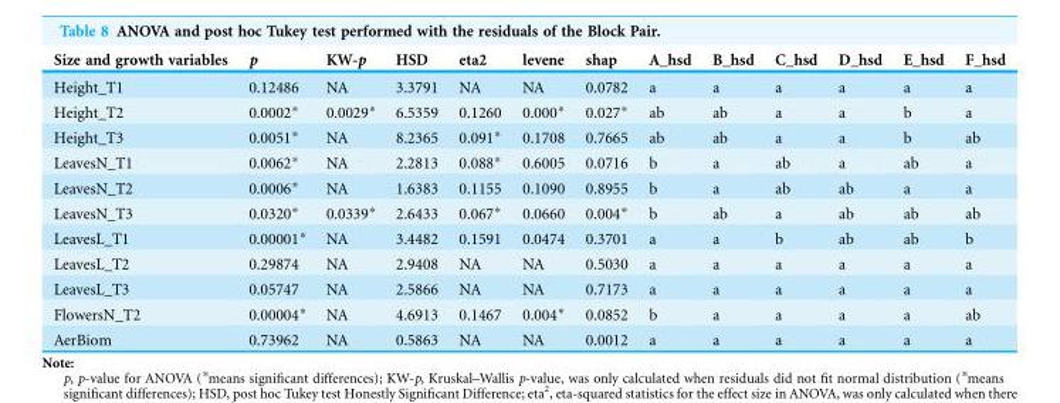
<table><thead><tr><td>Size and growth variables</td><td>p</td><td>KW-p</td><td>HSD</td><td>eta2</td><td>levene</td><td>shap</td><td>A_hsd</td><td>B_hsd</td><td>C_hsd</td><td>D_hsd</td><td>E_hsd</td><td>F_hsd</td></tr></thead><tbody><tr><td>Height_T1</td><td>0.12486</td><td>NA</td><td>3.3791</td><td>NA</td><td>NA</td><td>0.0782</td><td>a</td><td>a</td><td>a</td><td>a</td><td>a</td><td>a</td></tr><tr><td>Height_T2</td><td>0.0002*</td><td>0.0029*</td><td>6.5359</td><td>0.1260</td><td>0.000*</td><td>0.027*</td><td>ab</td><td>ab</td><td>a</td><td>a</td><td>b</td><td>a</td></tr><tr><td>Height_T3</td><td>0.0051*</td><td>NA</td><td>8.2365</td><td>0.091*</td><td>0.1708</td><td>0.7665</td><td>ab</td><td>ab</td><td>a</td><td>a</td><td>b</td><td>ab</td></tr><tr><td>LeavesN_T1</td><td>0.0062*</td><td>NA</td><td>2.2813</td><td>0.088*</td><td>0.6005</td><td>0.0716</td><td>b</td><td>a</td><td>ab</td><td>a</td><td>ab</td><td>a</td></tr><tr><td>LeavesN_T2</td><td>0.0006*</td><td>NA</td><td>1.6383</td><td>0.1155</td><td>0.1090</td><td>0.8955</td><td>b</td><td>a</td><td>ab</td><td>ab</td><td>a</td><td>a</td></tr><tr><td>LeavesN_T3</td><td>0.0320*</td><td>0.0339*</td><td>2.6433</td><td>0.067*</td><td>0.0660</td><td>0.004*</td><td>b</td><td>ab</td><td>a</td><td>ab</td><td>ab</td><td>ab</td></tr><tr><td>LeavesL_T1</td><td>0.00001*</td><td>NA</td><td>3.4482</td><td>0.1591</td><td>0.0474</td><td>0.3701</td><td>a</td><td>a</td><td>b</td><td>ab</td><td>ab</td><td>b</td></tr><tr><td>LeavesL_T2</td><td>0.29874</td><td>NA</td><td>2.9408</td><td>NA</td><td>NA</td><td>0.5030</td><td>a</td><td>a</td><td>a</td><td>a</td><td>a</td><td>a</td></tr><tr><td>LeavesL_T3</td><td>0.05747</td><td>NA</td><td>2.5866</td><td>NA</td><td>NA</td><td>0.7173</td><td>a</td><td>a</td><td>a</td><td>a</td><td>a</td><td>a</td></tr><tr><td>FlowersN_T2</td><td>0.00004*</td><td>NA</td><td>4.6913</td><td>0.1467</td><td>0.004*</td><td>0.0852</td><td>b</td><td>a</td><td>a</td><td>a</td><td>a</td><td>ab</td></tr><tr><td>AerBiom</td><td>0.73962</td><td>NA</td><td>0.5863</td><td>NA</td><td>NA</td><td>0.0012</td><td>a</td><td>a</td><td>a</td><td>a</td><td>a</td><td>a</td></tr></tbody></table>